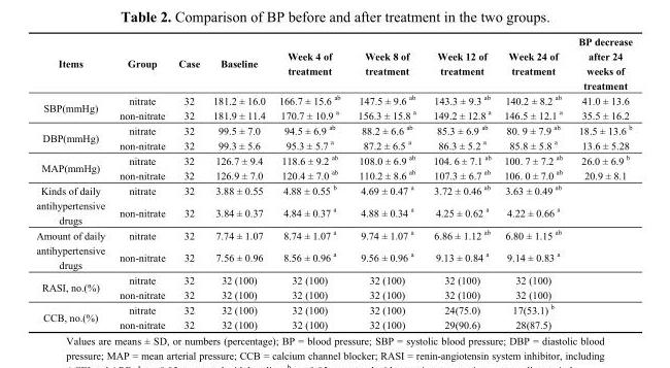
<table><thead><tr><td>Items</td><td>Group</td><td>Case</td><td>Baseline</td><td>Week 4 of treatment</td><td>Week 8 of treatment</td><td>Week 12 of treatment</td><td>Week 24 of treatment</td><td>BP decrease after 24 weeks of treatment</td></tr></thead><tbody><tr><td rowspan="2">SBP(mmHg)</td><td>nitrate</td><td>32</td><td>181.2 ± 16.0</td><td>166.7 ± 15.6 ab</td><td>147.5 ± 9.6 ab</td><td>143.3 ± 9.3 ab</td><td>140.2 ± 8.2 ab</td><td>41.0 ± 13.6</td></tr><tr><td>non-nitrate</td><td>32</td><td>181.9 ± 11.4</td><td>170.7 ± 10.9 a</td><td>156.3 ± 15.8 a</td><td>149.2 ± 12.8 a</td><td>146.5 ± 12.1 a</td><td>35.5 ± 16.2</td></tr><tr><td rowspan="2">DBP(mmHg)</td><td>nitrate</td><td>32</td><td>99.5 ± 7.0</td><td>94.5 ± 6.9 ab</td><td>88.2 ± 6.6 ab</td><td>85.3 ± 6.9 ab</td><td>80. 9 ± 7.9 ab</td><td>18.5 ± 13.6 b</td></tr><tr><td>non-nitrate</td><td>32</td><td>99.3 ± 5.6</td><td>95.3 ± 5.7 a</td><td>87.2 ± 6.5 a</td><td>86.3 ± 5.2 a</td><td>85.8 ± 5.8 a</td><td>13.6 ± 5.28</td></tr><tr><td rowspan="2">MAP(mmHg)</td><td>nitrate</td><td>32</td><td>126.7 ± 9.4</td><td>118.6 ± 9.2 ab</td><td>108.0 ± 6.9 ab</td><td>104. 6 ± 7.1 ab</td><td>100. 7 ± 7.2 ab</td><td>26.0 ± 6.9 b</td></tr><tr><td>non-nitrate</td><td>32</td><td>126.9 ± 7.0</td><td>120.4 ± 7.0 ab</td><td>110.2 ± 8.6 ab</td><td>107.3 ± 6.7 ab</td><td>106. 0 ± 7.0 ab</td><td>20.9 ± 8.1</td></tr><tr><td rowspan="2">Kinds of daily antihypertensive drugs</td><td>nitrate</td><td>32</td><td>3.88 ± 0.55</td><td>4.88 ± 0.55 b</td><td>4.69 ± 0.47 a</td><td>3.72 ± 0.46 ab</td><td>3.63 ± 0.49 ab</td><td></td></tr><tr><td>non-nitrate</td><td>32</td><td>3.84 ± 0.37</td><td>4.84 ± 0.37 a</td><td>4.88 ± 0.34 a</td><td>4.25 ± 0.62 a</td><td>4.22 ± 0.66 a</td><td></td></tr><tr><td rowspan="2">Amount of daily antihypertensive drugs</td><td>nitrate</td><td>32</td><td>7.74 ± 1.07</td><td>8.74 ± 1.07 a</td><td>9.74 ± 1.07 a</td><td>6.86 ± 1.12 ab</td><td>6.80 ± 1.15 ab</td><td></td></tr><tr><td>non-nitrate</td><td>32</td><td>7.56 ± 0.96</td><td>8.56 ± 0.96 a</td><td>9.56 ± 0.96 a</td><td>9.13 ± 0.84 a</td><td>9.14 ± 0.83 a</td><td></td></tr><tr><td rowspan="2">RASI, no.(%)</td><td>nitrate</td><td>32</td><td>32 (100)</td><td>32 (100)</td><td>32 (100)</td><td>32 (100)</td><td>32 (100)</td><td></td></tr><tr><td>non-nitrate</td><td>32</td><td>32 (100)</td><td>32 (100)</td><td>32 (100)</td><td>32 (100)</td><td>32 (100)</td><td></td></tr><tr><td rowspan="2">CCB, no.(%)</td><td>nitrate</td><td>32</td><td>32 (100)</td><td>32 (100)</td><td>32 (100)</td><td>24(75.0)</td><td>17(53.1) b</td><td></td></tr><tr><td>non-nitrate</td><td>32</td><td>32 (100)</td><td>32 (100)</td><td>32 (100)</td><td>29(90.6)</td><td>28(87.5)</td><td></td></tr></tbody></table>